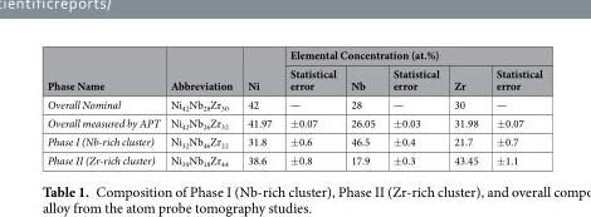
<table><thead><tr><td rowspan="2">Phase Name</td><td rowspan="2">Abbreviation</td><td rowspan="2">Ni</td><td colspan="5">Elemental Concentration (at.%)</td></tr><tr><td>Statistical error</td><td>Nb</td><td>Statistical error</td><td>Zr</td><td>Statistical error</td></tr></thead><tbody><tr><td>Overall Nominal</td><td>Ni<sub>42</sub>Nb<sub>28</sub>Zr<sub>30</sub></td><td>42</td><td>—</td><td>28</td><td>—</td><td>30</td><td>—</td></tr><tr><td>Overall measured by APT</td><td>Ni<sub>42</sub>Nb<sub>26</sub>Zr<sub>32</sub></td><td>41.97</td><td>±0.07</td><td>26.05</td><td>±0.03</td><td>31.98</td><td>±0.07</td></tr><tr><td>Phase I (Nb-rich cluster)</td><td>Ni<sub>32</sub>Nb<sub>46</sub>Zr<sub>22</sub></td><td>31.8</td><td>±0.6</td><td>46.5</td><td>±0.4</td><td>21.7</td><td>±0.7</td></tr><tr><td>Phase II (Zr-rich cluster)</td><td>Ni<sub>39</sub>Nb<sub>18</sub>Zr<sub>44</sub></td><td>38.6</td><td>±0.8</td><td>17.9</td><td>±0.3</td><td>43.45</td><td>±1.1</td></tr></tbody></table>